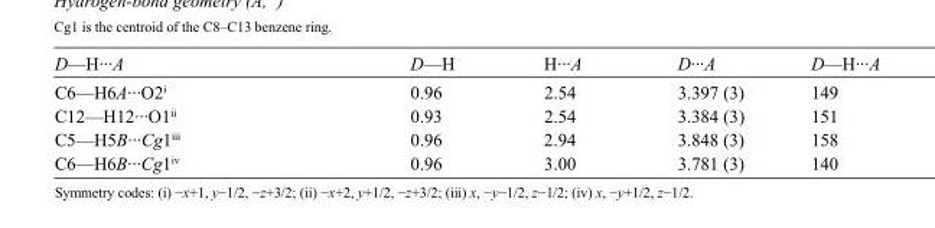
<table><tbody><tr><td>D—H···A</td><td>D—H</td><td>H···A</td><td>D···A</td><td>D—H···A</td></tr><tr><td>C6—H6A···O2<sup>i</sup></td><td>0.96</td><td>2.54</td><td>3.397 (3)</td><td>149</td></tr><tr><td>C12—H12···O1<sup>ii</sup></td><td>0.93</td><td>2.54</td><td>3.384 (3)</td><td>151</td></tr><tr><td>C5—H5B···Cg1<sup>iii</sup></td><td>0.96</td><td>2.94</td><td>3.848 (3)</td><td>158</td></tr><tr><td>C6—H6B···Cg1<sup>iv</sup></td><td>0.96</td><td>3.00</td><td>3.781 (3)</td><td>140</td></tr></tbody></table>